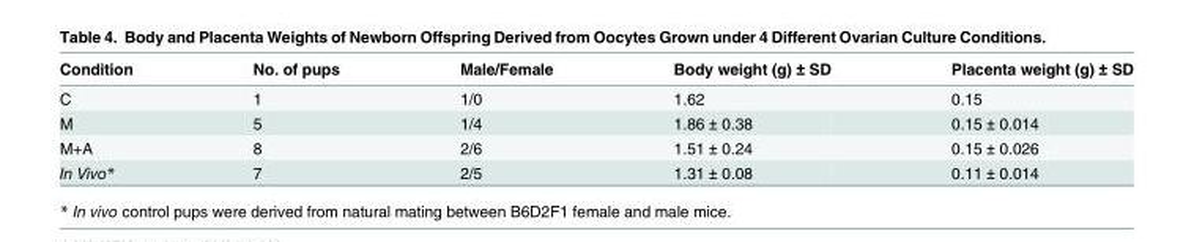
<table><thead><tr><td>Condition</td><td>No. of pups</td><td>Male/Female</td><td>Body weight (g) ± SD</td><td>Placenta weight (g) ± SD</td></tr></thead><tbody><tr><td>C</td><td>1</td><td>1/0</td><td>1.62</td><td>0.15</td></tr><tr><td>M</td><td>5</td><td>1/4</td><td>1.86 ± 0.38</td><td>0.15 ± 0.014</td></tr><tr><td>M+A</td><td>8</td><td>2/6</td><td>1.51 ± 0.24</td><td>0.15 ± 0.026</td></tr><tr><td>In Vivo*</td><td>7</td><td>2/5</td><td>1.31 ± 0.08</td><td>0.11 ± 0.014</td></tr></tbody></table>